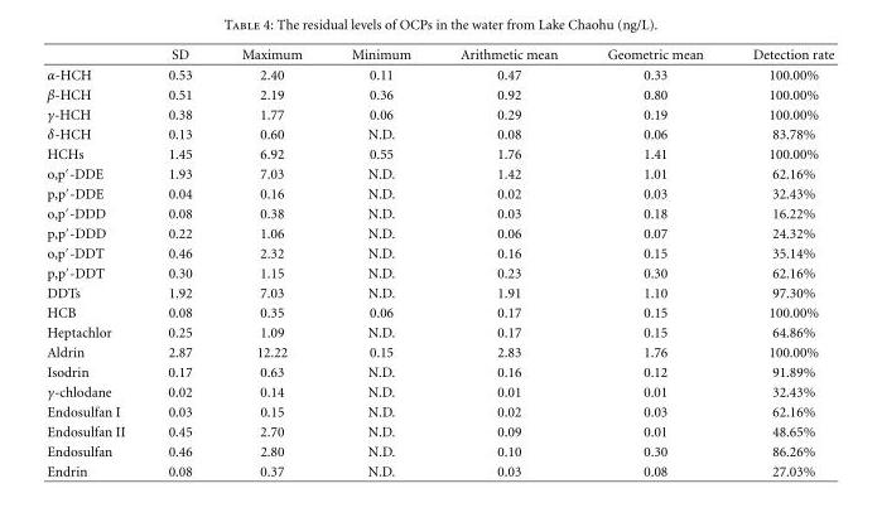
<table><thead><tr><td></td><td>SD</td><td>Maximum</td><td>Minimum</td><td>Arithmetic mean</td><td>Geometric mean</td><td>Detection rate</td></tr></thead><tbody><tr><td>α-HCH</td><td>0.53</td><td>2.40</td><td>0.11</td><td>0.47</td><td>0.33</td><td>100.00%</td></tr><tr><td>β-HCH</td><td>0.51</td><td>2.19</td><td>0.36</td><td>0.92</td><td>0.80</td><td>100.00%</td></tr><tr><td>γ-HCH</td><td>0.38</td><td>1.77</td><td>0.06</td><td>0.29</td><td>0.19</td><td>100.00%</td></tr><tr><td>δ-HCH</td><td>0.13</td><td>0.60</td><td>N.D.</td><td>0.08</td><td>0.06</td><td>83.78%</td></tr><tr><td>HCHs</td><td>1.45</td><td>6.92</td><td>0.55</td><td>1.76</td><td>1.41</td><td>100.00%</td></tr><tr><td>o,p′-DDE</td><td>1.93</td><td>7.03</td><td>N.D.</td><td>1.42</td><td>1.01</td><td>62.16%</td></tr><tr><td>p,p′-DDE</td><td>0.04</td><td>0.16</td><td>N.D.</td><td>0.02</td><td>0.03</td><td>32.43%</td></tr><tr><td>o,p′-DDD</td><td>0.08</td><td>0.38</td><td>N.D.</td><td>0.03</td><td>0.18</td><td>16.22%</td></tr><tr><td>p,p′-DDD</td><td>0.22</td><td>1.06</td><td>N.D.</td><td>0.06</td><td>0.07</td><td>24.32%</td></tr><tr><td>o,p′-DDT</td><td>0.46</td><td>2.32</td><td>N.D.</td><td>0.16</td><td>0.15</td><td>35.14%</td></tr><tr><td>p,p′-DDT</td><td>0.30</td><td>1.15</td><td>N.D.</td><td>0.23</td><td>0.30</td><td>62.16%</td></tr><tr><td>DDTs</td><td>1.92</td><td>7.03</td><td>N.D.</td><td>1.91</td><td>1.10</td><td>97.30%</td></tr><tr><td>HCB</td><td>0.08</td><td>0.35</td><td>0.06</td><td>0.17</td><td>0.15</td><td>100.00%</td></tr><tr><td>Heptachlor</td><td>0.25</td><td>1.09</td><td>N.D.</td><td>0.17</td><td>0.15</td><td>64.86%</td></tr><tr><td>Aldrin</td><td>2.87</td><td>12.22</td><td>0.15</td><td>2.83</td><td>1.76</td><td>100.00%</td></tr><tr><td>Isodrin</td><td>0.17</td><td>0.63</td><td>N.D.</td><td>0.16</td><td>0.12</td><td>91.89%</td></tr><tr><td>γ-chlodane</td><td>0.02</td><td>0.14</td><td>N.D.</td><td>0.01</td><td>0.01</td><td>32.43%</td></tr><tr><td>Endosulfan I</td><td>0.03</td><td>0.15</td><td>N.D.</td><td>0.02</td><td>0.03</td><td>62.16%</td></tr><tr><td>Endosulfan II</td><td>0.45</td><td>2.70</td><td>N.D.</td><td>0.09</td><td>0.01</td><td>48.65%</td></tr><tr><td>Endosulfan</td><td>0.46</td><td>2.80</td><td>N.D.</td><td>0.10</td><td>0.30</td><td>86.26%</td></tr><tr><td>Endrin</td><td>0.08</td><td>0.37</td><td>N.D.</td><td>0.03</td><td>0.08</td><td>27.03%</td></tr></tbody></table>